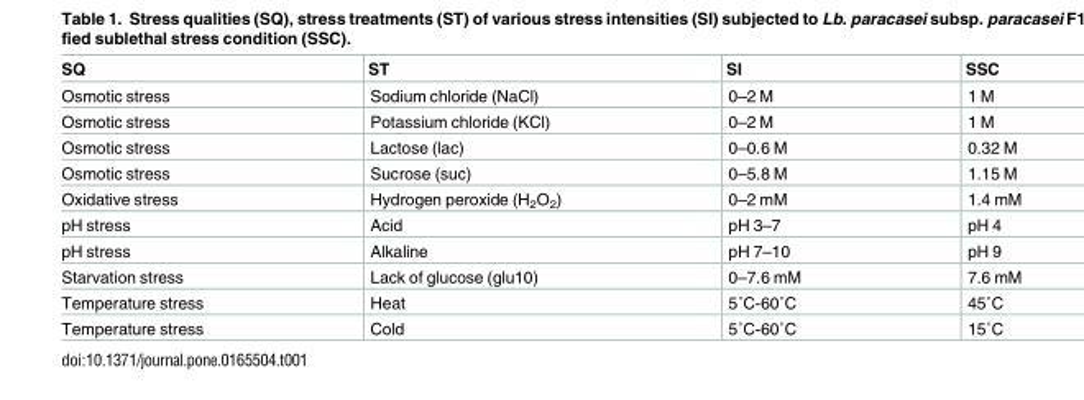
<table><thead><tr><td>SQ</td><td>ST</td><td>SI</td><td>SSC</td></tr></thead><tbody><tr><td>Osmotic stress</td><td>Sodium chloride (NaCl)</td><td>0–2 M</td><td>1 M</td></tr><tr><td>Osmotic stress</td><td>Potassium chloride (KCl)</td><td>0–2 M</td><td>1 M</td></tr><tr><td>Osmotic stress</td><td>Lactose (lac)</td><td>0–0.6 M</td><td>0.32 M</td></tr><tr><td>Osmotic stress</td><td>Sucrose (suc)</td><td>0–5.8 M</td><td>1.15 M</td></tr><tr><td>Oxidative stress</td><td>Hydrogen peroxide (H<sub>2</sub>O<sub>2</sub>)</td><td>0–2 mM</td><td>1.4 mM</td></tr><tr><td>pH stress</td><td>Acid</td><td>pH 3–7</td><td>pH 4</td></tr><tr><td>pH stress</td><td>Alkaline</td><td>pH 7–10</td><td>pH 9</td></tr><tr><td>Starvation stress</td><td>Lack of glucose (glu10)</td><td>0–7.6 mM</td><td>7.6 mM</td></tr><tr><td>Temperature stress</td><td>Heat</td><td>5˚C-60˚C</td><td>45˚C</td></tr><tr><td>Temperature stress</td><td>Cold</td><td>5˚C-60˚C</td><td>15˚C</td></tr></tbody></table>